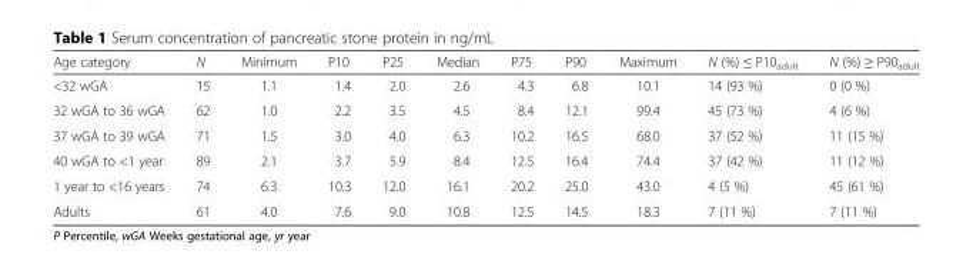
<table><thead><tr><td>Age category</td><td>N</td><td>Minimum</td><td>P10</td><td>P25</td><td>Median</td><td>P75</td><td>P90</td><td>Maximum</td><td>N (%) ≤ P10<sub>adult</sub></td><td>N (%) ≥ P90<sub>adult</sub></td></tr></thead><tbody><tr><td>&lt;32 wGA</td><td>15</td><td>1.1</td><td>1.4</td><td>2.0</td><td>2.6</td><td>4.3</td><td>6.8</td><td>10.1</td><td>14 (93 %)</td><td>0 (0 %)</td></tr><tr><td>32 wGA to 36 wGA</td><td>62</td><td>1.0</td><td>2.2</td><td>3.5</td><td>4.5</td><td>8.4</td><td>12.1</td><td>99.4</td><td>45 (73 %)</td><td>4 (6 %)</td></tr><tr><td>37 wGA to 39 wGA</td><td>71</td><td>1.5</td><td>3.0</td><td>4.0</td><td>6.3</td><td>10.2</td><td>16.5</td><td>68.0</td><td>37 (52 %)</td><td>11 (15 %)</td></tr><tr><td>40 wGA to &lt;1 year</td><td>89</td><td>2.1</td><td>3.7</td><td>5.9</td><td>8.4</td><td>12.5</td><td>16.4</td><td>74.4</td><td>37 (42 %)</td><td>11 (12 %)</td></tr><tr><td>1 year to &lt;16 years</td><td>74</td><td>6.3</td><td>10.3</td><td>12.0</td><td>16.1</td><td>20.2</td><td>25.0</td><td>43.0</td><td>4 (5 %)</td><td>45 (61 %)</td></tr><tr><td>Adults</td><td>61</td><td>4.0</td><td>7.6</td><td>9.0</td><td>10.8</td><td>12.5</td><td>14.5</td><td>18.3</td><td>7 (11 %)</td><td>7 (11 %)</td></tr></tbody></table>